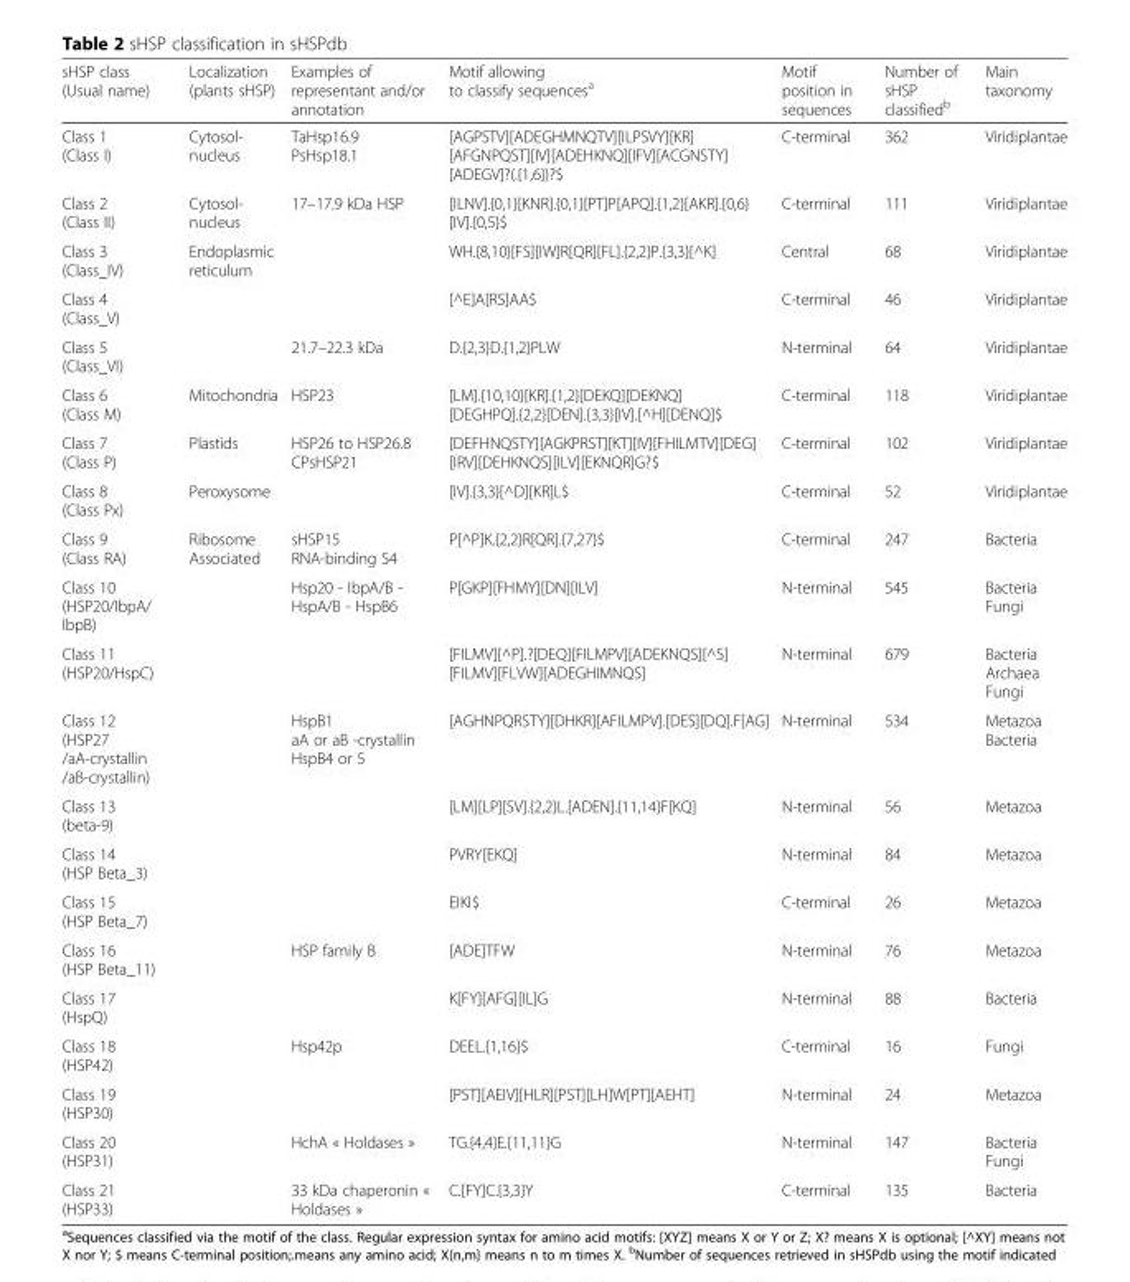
<table><thead><tr><td>sHSP class (Usual name)</td><td>Localization (plants sHSP)</td><td>Examples of representant and/or annotation</td><td>Motif allowing to classify sequences<sup>a</sup></td><td>Motif position in sequences</td><td>Number of sHSP classified<sup>b</sup></td><td>Main taxonomy</td></tr></thead><tbody><tr><td>Class 1 (Class I)</td><td>Cytosol- nucleus</td><td>TaHsp16.9 PsHsp18.1</td><td>[AGPSTV][ADEGHMNQTV][ILPSVY][KR] [AFGNPQST][IV][ADEHKNQ][IFV][ACGNSTY] [ADEGV]?(.{1,6})?$</td><td>C-terminal</td><td>362</td><td>Viridiplantae</td></tr><tr><td>Class 2 (Class II)</td><td>Cytosol- nucleus</td><td>17–17.9 kDa HSP</td><td>[ILNV].{0,1}[KNR].{0,1}[PT]P[APQ].{1,2}[AKR].{0,6} [IV].{0,5}$</td><td>C-terminal</td><td>111</td><td>Viridiplantae</td></tr><tr><td>Class 3 (Class_IV)</td><td>Endoplasmic reticulum</td><td></td><td>WH.{8,10}[FS][IW]R[QR][FL].{2,2}P.{3,3}[^K]</td><td>Central</td><td>68</td><td>Viridiplantae</td></tr><tr><td>Class 4 (Class_V)</td><td></td><td></td><td>[^E]A[RS]AA$</td><td>C-terminal</td><td>46</td><td>Viridiplantae</td></tr><tr><td>Class 5 (Class_VI)</td><td></td><td>21.7–22.3 kDa</td><td>D.{2,3}D.{1,2}PLW</td><td>N-terminal</td><td>64</td><td>Viridiplantae</td></tr><tr><td>Class 6 (Class M)</td><td>Mitochondria</td><td>HSP23</td><td>[LM].{10,10}[KR].{1,2}[DEKQ][DEKNQ] [DEGHPQ].{2,2}[DEN].{3,3}[IV].[^H][DENQ]$</td><td>C-terminal</td><td>118</td><td>Viridiplantae</td></tr><tr><td>Class 7 (Class P)</td><td>Plastids</td><td>HSP26 to HSP26.8 CPsHSP21</td><td>[DEFHNQSTY][AGKPRST][KT][IV][FHILMTV][DEG] [IRV][DEHKNQS][ILV][EKNQR]G?$</td><td>C-terminal</td><td>102</td><td>Viridiplantae</td></tr><tr><td>Class 8 (Class Px)</td><td>Peroxysome</td><td></td><td>[IV].{3,3}[^D][KR]L$</td><td>C-terminal</td><td>52</td><td>Viridiplantae</td></tr><tr><td>Class 9 (Class RA)</td><td>Ribosome Associated</td><td>sHSP15 RNA-binding S4</td><td>P[^P]K.{2,2}R[QR].{7,27}$</td><td>C-terminal</td><td>247</td><td>Bacteria</td></tr><tr><td>Class 10 (HSP20/IbpA/ IbpB)</td><td></td><td>Hsp20 - IbpA/B - HspA/B - HspB6</td><td>P[GKP][FHMY][DN][ILV]</td><td>N-terminal</td><td>545</td><td>Bacteria Fungi</td></tr><tr><td>Class 11 (HSP20/HspC)</td><td></td><td></td><td>[FILMV][^P].?[DEQ][FILMPV][ADEKNQS][^S] [FILMV][FLVW][ADEGHIMNQS]</td><td>N-terminal</td><td>679</td><td>Bacteria Archaea Fungi</td></tr><tr><td>Class 12 (HSP27 /aA-crystallin /aB-crystallin)</td><td></td><td>HspB1 aA or aB -crystallin HspB4 or 5</td><td>[AGHNPQRSTY][DHKR][AFILMPV].[DES][DQ].F[AG]</td><td>N-terminal</td><td>534</td><td>Metazoa Bacteria</td></tr><tr><td>Class 13 (beta-9)</td><td></td><td></td><td>[LM][LP][SV].{2,2}L.[ADEN].{11,14}F[KQ]</td><td>N-terminal</td><td>56</td><td>Metazoa</td></tr><tr><td>Class 14 (HSP Beta_3)</td><td></td><td></td><td>PVRY[EKQ]</td><td>N-terminal</td><td>84</td><td>Metazoa</td></tr><tr><td>Class 15 (HSP Beta_7)</td><td></td><td></td><td>EIKI$</td><td>C-terminal</td><td>26</td><td>Metazoa</td></tr><tr><td>Class 16 (HSP Beta_11)</td><td></td><td>HSP family B</td><td>[ADE]TFW</td><td>N-terminal</td><td>76</td><td>Metazoa</td></tr><tr><td>Class 17 (HspQ)</td><td></td><td></td><td>K[FY][AFG][IL]G</td><td>N-terminal</td><td>88</td><td>Bacteria</td></tr><tr><td>Class 18 (HSP42)</td><td></td><td>Hsp42p</td><td>DEEL.{1,16}$</td><td>C-terminal</td><td>16</td><td>Fungi</td></tr><tr><td>Class 19 (HSP30)</td><td></td><td></td><td>[PST][AEIV][HLR][PST][LH]W[PT][AEHT]</td><td>N-terminal</td><td>24</td><td>Metazoa</td></tr><tr><td>Class 20 (HSP31)</td><td></td><td>HchA « Holdases »</td><td>TG.{4,4}E.{11,11}G</td><td>N-terminal</td><td>147</td><td>Bacteria Fungi</td></tr><tr><td>Class 21 (HSP33)</td><td></td><td>33 kDa chaperonin « Holdases »</td><td>C.[FY]C.{3,3}Y</td><td>C-terminal</td><td>135</td><td>Bacteria</td></tr></tbody></table>